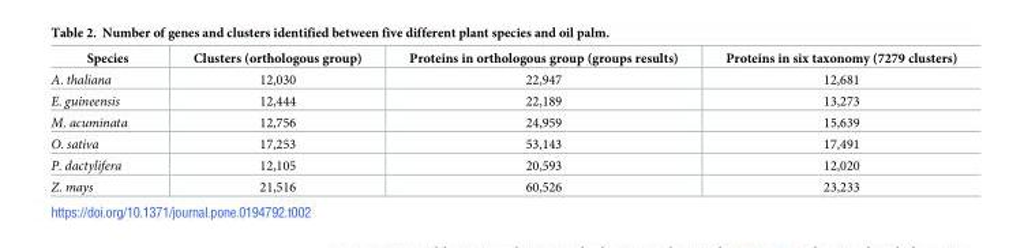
<table><thead><tr><td>Species</td><td>Clusters (orthologous group)</td><td>Proteins in orthologous group (groups results)</td><td>Proteins in six taxonomy (7279 clusters)</td></tr></thead><tbody><tr><td>A. thaliana</td><td>12,030</td><td>22,947</td><td>12,681</td></tr><tr><td>E. guineensis</td><td>12,444</td><td>22,189</td><td>13,273</td></tr><tr><td>M. acuminata</td><td>12,756</td><td>24,959</td><td>15,639</td></tr><tr><td>O. sativa</td><td>17,253</td><td>53,143</td><td>17,491</td></tr><tr><td>P. dactylifera</td><td>12,105</td><td>20,593</td><td>12,020</td></tr><tr><td>Z. mays</td><td>21,516</td><td>60,526</td><td>23,233</td></tr></tbody></table>